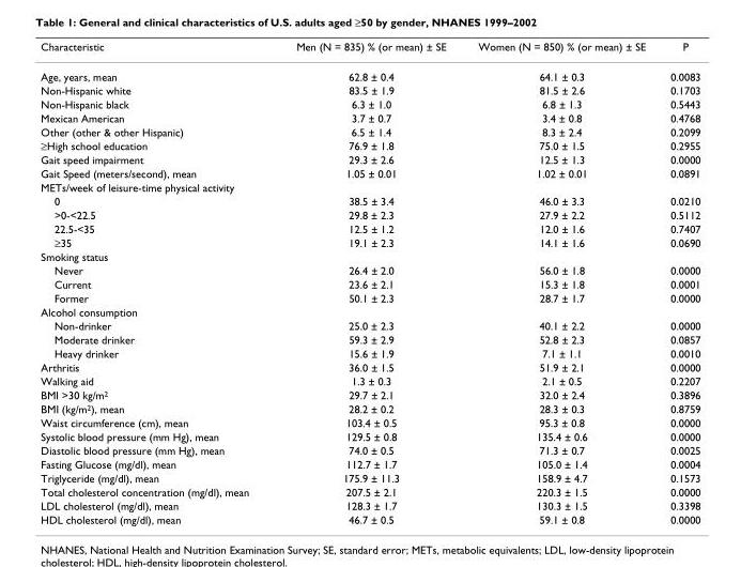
<table><thead><tr><td>Characteristic</td><td>Men (N = 835) % (or mean) ± SE</td><td>Women (N = 850) % (or mean) ± SE</td><td>P</td></tr></thead><tbody><tr><td>Age, years, mean</td><td>62.8 ± 0.4</td><td>64.1 ± 0.3</td><td>0.0083</td></tr><tr><td>Non-Hispanic white</td><td>83.5 ± 1.9</td><td>81.5 ± 2.6</td><td>0.1703</td></tr><tr><td>Non-Hispanic black</td><td>6.3 ± 1.0</td><td>6.8 ± 1.3</td><td>0.5443</td></tr><tr><td>Mexican American</td><td>3.7 ± 0.7</td><td>3.4 ± 0.8</td><td>0.4768</td></tr><tr><td>Other (other &amp; other Hispanic)</td><td>6.5 ± 1.4</td><td>8.3 ± 2.4</td><td>0.2099</td></tr><tr><td>≥High school education</td><td>76.9 ± 1.8</td><td>75.0 ± 1.5</td><td>0.2955</td></tr><tr><td>Gait speed impairment</td><td>29.3 ± 2.6</td><td>12.5 ± 1.3</td><td>0.0000</td></tr><tr><td>Gait Speed (meters/second), mean</td><td>1.05 ± 0.01</td><td>1.02 ± 0.01</td><td>0.0891</td></tr><tr><td colspan="4">METs/week of leisure-time physical activity</td></tr><tr><td>0</td><td>38.5 ± 3.4</td><td>46.0 ± 3.3</td><td>0.0210</td></tr><tr><td>&gt;0-&lt;22.5</td><td>29.8 ± 2.3</td><td>27.9 ± 2.2</td><td>0.5112</td></tr><tr><td>22.5-&lt;35</td><td>12.5 ± 1.2</td><td>12.0 ± 1.6</td><td>0.7407</td></tr><tr><td>≥35</td><td>19.1 ± 2.3</td><td>14.1 ± 1.6</td><td>0.0690</td></tr><tr><td colspan="4">Smoking status</td></tr><tr><td>Never</td><td>26.4 ± 2.0</td><td>56.0 ± 1.8</td><td>0.0000</td></tr><tr><td>Current</td><td>23.6 ± 2.1</td><td>15.3 ± 1.8</td><td>0.0001</td></tr><tr><td>Former</td><td>50.1 ± 2.3</td><td>28.7 ± 1.7</td><td>0.0000</td></tr><tr><td colspan="4">Alcohol consumption</td></tr><tr><td>Non-drinker</td><td>25.0 ± 2.3</td><td>40.1 ± 2.2</td><td>0.0000</td></tr><tr><td>Moderate drinker</td><td>59.3 ± 2.9</td><td>52.8 ± 2.3</td><td>0.0857</td></tr><tr><td>Heavy drinker</td><td>15.6 ± 1.9</td><td>7.1 ± 1.1</td><td>0.0010</td></tr><tr><td>Arthritis</td><td>36.0 ± 1.5</td><td>51.9 ± 2.1</td><td>0.0000</td></tr><tr><td>Walking aid</td><td>1.3 ± 0.3</td><td>2.1 ± 0.5</td><td>0.2207</td></tr><tr><td>BMI &gt;30 kg/m2</td><td>29.7 ± 2.1</td><td>32.0 ± 2.4</td><td>0.3896</td></tr><tr><td>BMI (kg/m2), mean</td><td>28.2 ± 0.2</td><td>28.3 ± 0.3</td><td>0.8759</td></tr><tr><td>Waist circumference (cm), mean</td><td>103.4 ± 0.5</td><td>95.3 ± 0.8</td><td>0.0000</td></tr><tr><td>Systolic blood pressure (mm Hg), mean</td><td>129.5 ± 0.8</td><td>135.4 ± 0.6</td><td>0.0000</td></tr><tr><td>Diastolic blood pressure (mm Hg), mean</td><td>74.0 ± 0.5</td><td>71.3 ± 0.7</td><td>0.0025</td></tr><tr><td>Fasting Glucose (mg/dl), mean</td><td>112.7 ± 1.7</td><td>105.0 ± 1.4</td><td>0.0004</td></tr><tr><td>Triglyceride (mg/dl), mean</td><td>175.9 ± 11.3</td><td>158.9 ± 4.7</td><td>0.1573</td></tr><tr><td>Total cholesterol concentration (mg/dl), mean</td><td>207.5 ± 2.1</td><td>220.3 ± 1.5</td><td>0.0000</td></tr><tr><td>LDL cholesterol (mg/dl), mean</td><td>128.3 ± 1.7</td><td>130.3 ± 1.5</td><td>0.3398</td></tr><tr><td>HDL cholesterol (mg/dl), mean</td><td>46.7 ± 0.5</td><td>59.1 ± 0.8</td><td>0.0000</td></tr></tbody></table>